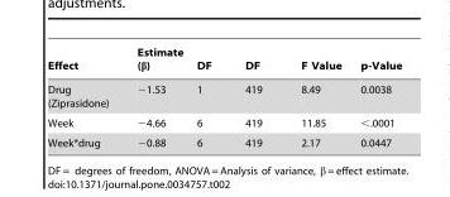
<table><thead><tr><td>Effect</td><td>Estimate (β)</td><td>DF</td><td>DF</td><td>F Value</td><td>p-Value</td></tr></thead><tbody><tr><td>Drug (Ziprasidone)</td><td>−1.53</td><td>1</td><td>419</td><td>8.49</td><td>0.0038</td></tr><tr><td>Week</td><td>−4.66</td><td>6</td><td>419</td><td>11.85</td><td>&lt;.0001</td></tr><tr><td>Week*drug</td><td>−0.88</td><td>6</td><td>419</td><td>2.17</td><td>0.0447</td></tr></tbody></table>